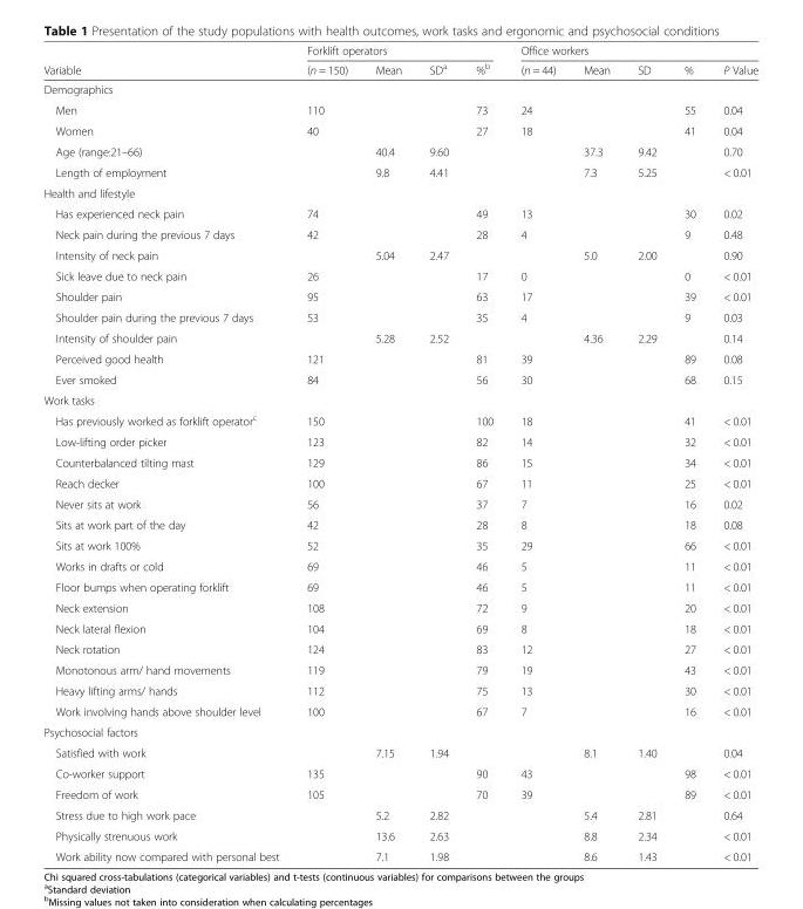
<table><thead><tr><td rowspan="2">Variable</td><td colspan="4">Forklift operators</td><td colspan="5">Office workers</td></tr><tr><td>(n = 150)</td><td>Mean</td><td>SD<sup>a</sup></td><td>%<sup>b</sup></td><td>(n = 44)</td><td>Mean</td><td>SD</td><td>%</td><td>P Value</td></tr></thead><tbody><tr><td colspan="10">Demographics</td></tr><tr><td>Men</td><td>110</td><td></td><td></td><td>73</td><td>24</td><td></td><td></td><td>55</td><td>0.04</td></tr><tr><td>Women</td><td>40</td><td></td><td></td><td>27</td><td>18</td><td></td><td></td><td>41</td><td>0.04</td></tr><tr><td>Age (range:21–66)</td><td></td><td>40.4</td><td>9.60</td><td></td><td></td><td>37.3</td><td>9.42</td><td></td><td>0.70</td></tr><tr><td>Length of employment</td><td></td><td>9.8</td><td>4.41</td><td></td><td></td><td>7.3</td><td>5.25</td><td></td><td>&lt; 0.01</td></tr><tr><td colspan="10">Health and lifestyle</td></tr><tr><td>Has experienced neck pain</td><td>74</td><td></td><td></td><td>49</td><td>13</td><td></td><td></td><td>30</td><td>0.02</td></tr><tr><td>Neck pain during the previous 7 days</td><td>42</td><td></td><td></td><td>28</td><td>4</td><td></td><td></td><td>9</td><td>0.48</td></tr><tr><td>Intensity of neck pain</td><td></td><td>5.04</td><td>2.47</td><td></td><td></td><td>5.0</td><td>2.00</td><td></td><td>0.90</td></tr><tr><td>Sick leave due to neck pain</td><td>26</td><td></td><td></td><td>17</td><td>0</td><td></td><td></td><td>0</td><td>&lt; 0.01</td></tr><tr><td>Shoulder pain</td><td>95</td><td></td><td></td><td>63</td><td>17</td><td></td><td></td><td>39</td><td>&lt; 0.01</td></tr><tr><td>Shoulder pain during the previous 7 days</td><td>53</td><td></td><td></td><td>35</td><td>4</td><td></td><td></td><td>9</td><td>0.03</td></tr><tr><td>Intensity of shoulder pain</td><td></td><td>5.28</td><td>2.52</td><td></td><td></td><td>4.36</td><td>2.29</td><td></td><td>0.14</td></tr><tr><td>Perceived good health</td><td>121</td><td></td><td></td><td>81</td><td>39</td><td></td><td></td><td>89</td><td>0.08</td></tr><tr><td>Ever smoked</td><td>84</td><td></td><td></td><td>56</td><td>30</td><td></td><td></td><td>68</td><td>0.15</td></tr><tr><td colspan="10">Work tasks</td></tr><tr><td>Has previously worked as forklift operator<sup>c</sup></td><td>150</td><td></td><td></td><td>100</td><td>18</td><td></td><td></td><td>41</td><td>&lt; 0.01</td></tr><tr><td>Low-lifting order picker</td><td>123</td><td></td><td></td><td>82</td><td>14</td><td></td><td></td><td>32</td><td>&lt; 0.01</td></tr><tr><td>Counterbalanced tilting mast</td><td>129</td><td></td><td></td><td>86</td><td>15</td><td></td><td></td><td>34</td><td>&lt; 0.01</td></tr><tr><td>Reach decker</td><td>100</td><td></td><td></td><td>67</td><td>11</td><td></td><td></td><td>25</td><td>&lt; 0.01</td></tr><tr><td>Never sits at work</td><td>56</td><td></td><td></td><td>37</td><td>7</td><td></td><td></td><td>16</td><td>0.02</td></tr><tr><td>Sits at work part of the day</td><td>42</td><td></td><td></td><td>28</td><td>8</td><td></td><td></td><td>18</td><td>0.08</td></tr><tr><td>Sits at work 100%</td><td>52</td><td></td><td></td><td>35</td><td>29</td><td></td><td></td><td>66</td><td>&lt; 0.01</td></tr><tr><td>Works in drafts or cold</td><td>69</td><td></td><td></td><td>46</td><td>5</td><td></td><td></td><td>11</td><td>&lt; 0.01</td></tr><tr><td>Floor bumps when operating forklift</td><td>69</td><td></td><td></td><td>46</td><td>5</td><td></td><td></td><td>11</td><td>&lt; 0.01</td></tr><tr><td>Neck extension</td><td>108</td><td></td><td></td><td>72</td><td>9</td><td></td><td></td><td>20</td><td>&lt; 0.01</td></tr><tr><td>Neck lateral flexion</td><td>104</td><td></td><td></td><td>69</td><td>8</td><td></td><td></td><td>18</td><td>&lt; 0.01</td></tr><tr><td>Neck rotation</td><td>124</td><td></td><td></td><td>83</td><td>12</td><td></td><td></td><td>27</td><td>&lt; 0.01</td></tr><tr><td>Monotonous arm/ hand movements</td><td>119</td><td></td><td></td><td>79</td><td>19</td><td></td><td></td><td>43</td><td>&lt; 0.01</td></tr><tr><td>Heavy lifting arms/ hands</td><td>112</td><td></td><td></td><td>75</td><td>13</td><td></td><td></td><td>30</td><td>&lt; 0.01</td></tr><tr><td>Work involving hands above shoulder level</td><td>100</td><td></td><td></td><td>67</td><td>7</td><td></td><td></td><td>16</td><td>&lt; 0.01</td></tr><tr><td colspan="10">Psychosocial factors</td></tr><tr><td>Satisfied with work</td><td></td><td>7.15</td><td>1.94</td><td></td><td></td><td>8.1</td><td>1.40</td><td></td><td>0.04</td></tr><tr><td>Co-worker support</td><td>135</td><td></td><td></td><td>90</td><td>43</td><td></td><td></td><td>98</td><td>&lt; 0.01</td></tr><tr><td>Freedom of work</td><td>105</td><td></td><td></td><td>70</td><td>39</td><td></td><td></td><td>89</td><td>&lt; 0.01</td></tr><tr><td>Stress due to high work pace</td><td></td><td>5.2</td><td>2.82</td><td></td><td></td><td>5.4</td><td>2.81</td><td></td><td>0.64</td></tr><tr><td>Physically strenuous work</td><td></td><td>13.6</td><td>2.63</td><td></td><td></td><td>8.8</td><td>2.34</td><td></td><td>&lt; 0.01</td></tr><tr><td>Work ability now compared with personal best</td><td></td><td>7.1</td><td>1.98</td><td></td><td></td><td>8.6</td><td>1.43</td><td></td><td>&lt; 0.01</td></tr></tbody></table>